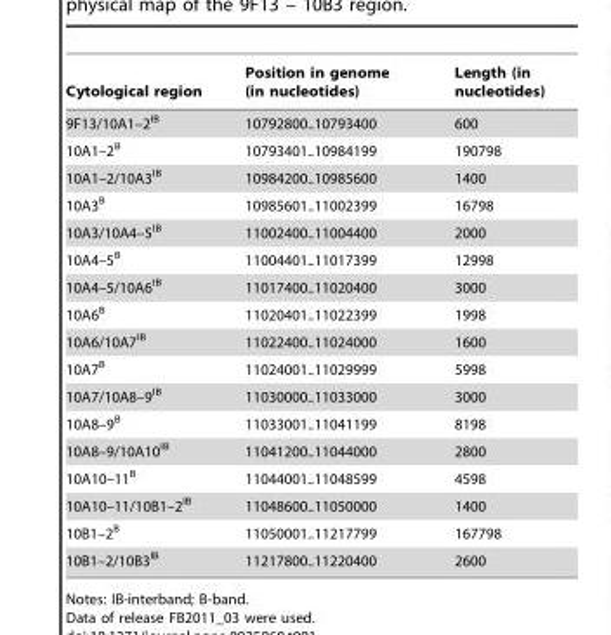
<table><thead><tr><td>Cytological region</td><td>Position in genome (in nucleotides)</td><td>Length (in nucleotides)</td></tr></thead><tbody><tr><td>9F13/10A1–2<sup>IB</sup></td><td>10792800..10793400</td><td>600</td></tr><tr><td>10A1–2<sup>B</sup></td><td>10793401..10984199</td><td>190798</td></tr><tr><td>10A1–2/10A3<sup>IB</sup></td><td>10984200..10985600</td><td>1400</td></tr><tr><td>10A3<sup>B</sup></td><td>10985601..11002399</td><td>16798</td></tr><tr><td>10A3/10A4–5<sup>IB</sup></td><td>11002400..11004400</td><td>2000</td></tr><tr><td>10A4–5<sup>B</sup></td><td>11004401..11017399</td><td>12998</td></tr><tr><td>10A4–5/10A6<sup>IB</sup></td><td>11017400..11020400</td><td>3000</td></tr><tr><td>10A6<sup>B</sup></td><td>11020401..11022399</td><td>1998</td></tr><tr><td>10A6/10A7<sup>IB</sup></td><td>11022400..11024000</td><td>1600</td></tr><tr><td>10A7<sup>B</sup></td><td>11024001..11029999</td><td>5998</td></tr><tr><td>10A7/10A8–9<sup>IB</sup></td><td>11030000..11033000</td><td>3000</td></tr><tr><td>10A8–9<sup>B</sup></td><td>11033001..11041199</td><td>8198</td></tr><tr><td>10A8–9/10A10<sup>IB</sup></td><td>11041200..11044000</td><td>2800</td></tr><tr><td>10A10–11<sup>B</sup></td><td>11044001..11048599</td><td>4598</td></tr><tr><td>10A10–11/10B1–2<sup>IB</sup></td><td>11048600..11050000</td><td>1400</td></tr><tr><td>10B1–2<sup>B</sup></td><td>11050001..11217799</td><td>167798</td></tr><tr><td>10B1–2/10B3<sup>IB</sup></td><td>11217800..11220400</td><td>2600</td></tr></tbody></table>